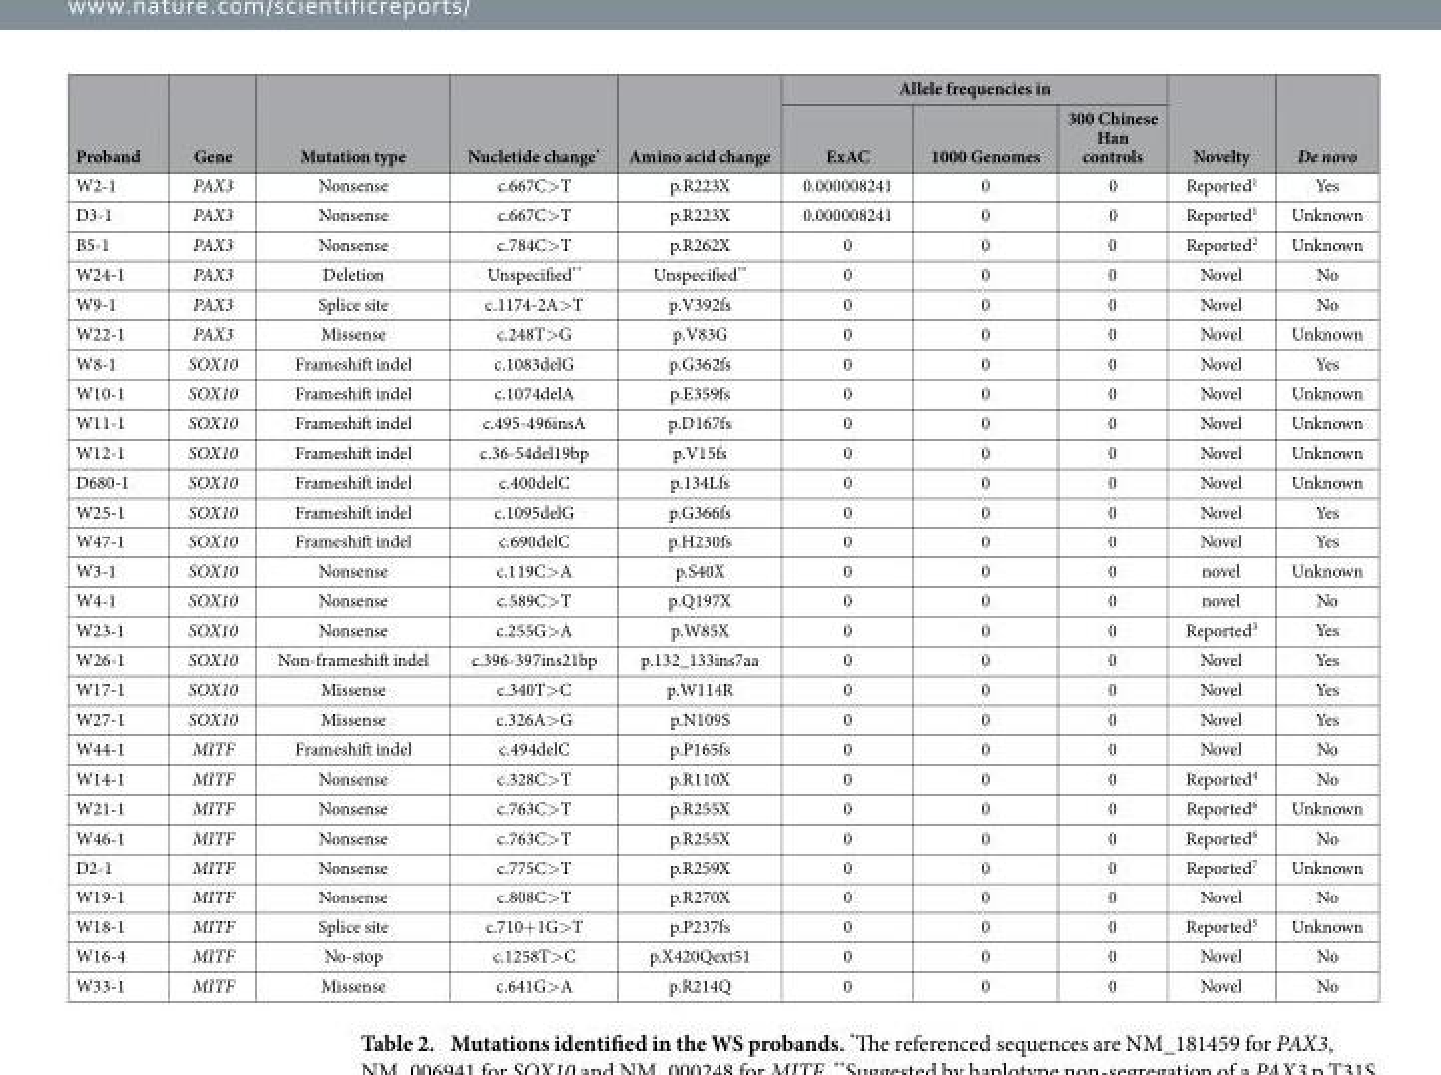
<table><thead><tr><td rowspan="2">Proband</td><td rowspan="2">Gene</td><td rowspan="2">Mutation type</td><td rowspan="2">Nucletide change*</td><td rowspan="2">Amino acid change</td><td colspan="3">Allele frequencies in</td><td rowspan="2">Novelty</td><td rowspan="2">De novo</td></tr><tr><td>ExAC</td><td>1000 Genomes</td><td>300 Chinese Han controls</td></tr></thead><tbody><tr><td>W2-1</td><td>PAX3</td><td>Nonsense</td><td>c.667C&gt; T</td><td>p.R223X</td><td>0.000008241</td><td>0</td><td>0</td><td>Reported<sup>1</sup></td><td>Yes</td></tr><tr><td>D3-1</td><td>PAX3</td><td>Nonsense</td><td>c.667C&gt; T</td><td>p.R223X</td><td>0.000008241</td><td>0</td><td>0</td><td>Reported<sup>1</sup></td><td>Unknown</td></tr><tr><td>B5-1</td><td>PAX3</td><td>Nonsense</td><td>c.784C&gt; T</td><td>p.R262X</td><td>0</td><td>0</td><td>0</td><td>Reported<sup>2</sup></td><td>Unknown</td></tr><tr><td>W24-1</td><td>PAX3</td><td>Deletion</td><td>Unspecified**</td><td>Unspecified**</td><td>0</td><td>0</td><td>0</td><td>Novel</td><td>No</td></tr><tr><td>W9-1</td><td>PAX3</td><td>Splice site</td><td>c.1174-2A&gt; T</td><td>p.V392fs</td><td>0</td><td>0</td><td>0</td><td>Novel</td><td>No</td></tr><tr><td>W22-1</td><td>PAX3</td><td>Missense</td><td>c.248T&gt; G</td><td>p.V83G</td><td>0</td><td>0</td><td>0</td><td>Novel</td><td>Unknown</td></tr><tr><td>W8-1</td><td>SOX10</td><td>Frameshift indel</td><td>c.1083delG</td><td>p.G362fs</td><td>0</td><td>0</td><td>0</td><td>Novel</td><td>Yes</td></tr><tr><td>W10-1</td><td>SOX10</td><td>Frameshift indel</td><td>c.1074delA</td><td>p.E359fs</td><td>0</td><td>0</td><td>0</td><td>Novel</td><td>Unknown</td></tr><tr><td>W11-1</td><td>SOX10</td><td>Frameshift indel</td><td>c.495-496insA</td><td>p.D167fs</td><td>0</td><td>0</td><td>0</td><td>Novel</td><td>Unknown</td></tr><tr><td>W12-1</td><td>SOX10</td><td>Frameshift indel</td><td>c.36-54del19bp</td><td>p.V15fs</td><td>0</td><td>0</td><td>0</td><td>Novel</td><td>Unknown</td></tr><tr><td>D680-1</td><td>SOX10</td><td>Frameshift indel</td><td>c.400delC</td><td>p.134Lfs</td><td>0</td><td>0</td><td>0</td><td>Novel</td><td>Unknown</td></tr><tr><td>W25-1</td><td>SOX10</td><td>Frameshift indel</td><td>c.1095delG</td><td>p.G366fs</td><td>0</td><td>0</td><td>0</td><td>Novel</td><td>Yes</td></tr><tr><td>W47-1</td><td>SOX10</td><td>Frameshift indel</td><td>c.690delC</td><td>p.H230fs</td><td>0</td><td>0</td><td>0</td><td>Novel</td><td>Yes</td></tr><tr><td>W3-1</td><td>SOX10</td><td>Nonsense</td><td>c.119C&gt; A</td><td>p.S40X</td><td>0</td><td>0</td><td>0</td><td>novel</td><td>Unknown</td></tr><tr><td>W4-1</td><td>SOX10</td><td>Nonsense</td><td>c.589C&gt; T</td><td>p.Q197X</td><td>0</td><td>0</td><td>0</td><td>novel</td><td>No</td></tr><tr><td>W23-1</td><td>SOX10</td><td>Nonsense</td><td>c.255G&gt; A</td><td>p.W85X</td><td>0</td><td>0</td><td>0</td><td>Reported<sup>3</sup></td><td>Yes</td></tr><tr><td>W26-1</td><td>SOX10</td><td>Non-frameshift indel</td><td>c.396-397ins21bp</td><td>p.132_133ins7aa</td><td>0</td><td>0</td><td>0</td><td>Novel</td><td>Yes</td></tr><tr><td>W17-1</td><td>SOX10</td><td>Missense</td><td>c.340T&gt; C</td><td>p.W114R</td><td>0</td><td>0</td><td>0</td><td>Novel</td><td>Yes</td></tr><tr><td>W27-1</td><td>SOX10</td><td>Missense</td><td>c.326A&gt; G</td><td>p.N109S</td><td>0</td><td>0</td><td>0</td><td>Novel</td><td>Yes</td></tr><tr><td>W44-1</td><td>MITF</td><td>Frameshift indel</td><td>c.494delC</td><td>p.P165fs</td><td>0</td><td>0</td><td>0</td><td>Novel</td><td>No</td></tr><tr><td>W14-1</td><td>MITF</td><td>Nonsense</td><td>c.328C&gt; T</td><td>p.R110X</td><td>0</td><td>0</td><td>0</td><td>Reported<sup>4</sup></td><td>No</td></tr><tr><td>W21-1</td><td>MITF</td><td>Nonsense</td><td>c.763C&gt; T</td><td>p.R255X</td><td>0</td><td>0</td><td>0</td><td>Reported<sup>6</sup></td><td>Unknown</td></tr><tr><td>W46-1</td><td>MITF</td><td>Nonsense</td><td>c.763C&gt; T</td><td>p.R255X</td><td>0</td><td>0</td><td>0</td><td>Reported<sup>6</sup></td><td>No</td></tr><tr><td>D2-1</td><td>MITF</td><td>Nonsense</td><td>c.775C&gt; T</td><td>p.R259X</td><td>0</td><td>0</td><td>0</td><td>Reported<sup>7</sup></td><td>Unknown</td></tr><tr><td>W19-1</td><td>MITF</td><td>Nonsense</td><td>c.808C&gt; T</td><td>p.R270X</td><td>0</td><td>0</td><td>0</td><td>Novel</td><td>No</td></tr><tr><td>W18-1</td><td>MITF</td><td>Splice site</td><td>c.710+ 1G&gt; T</td><td>p.P237fs</td><td>0</td><td>0</td><td>0</td><td>Reported<sup>5</sup></td><td>Unknown</td></tr><tr><td>W16-4</td><td>MITF</td><td>No-stop</td><td>c.1258T&gt; C</td><td>p.X420Qext51</td><td>0</td><td>0</td><td>0</td><td>Novel</td><td>No</td></tr><tr><td>W33-1</td><td>MITF</td><td>Missense</td><td>c.641G&gt; A</td><td>p.R214Q</td><td>0</td><td>0</td><td>0</td><td>Novel</td><td>No</td></tr></tbody></table>